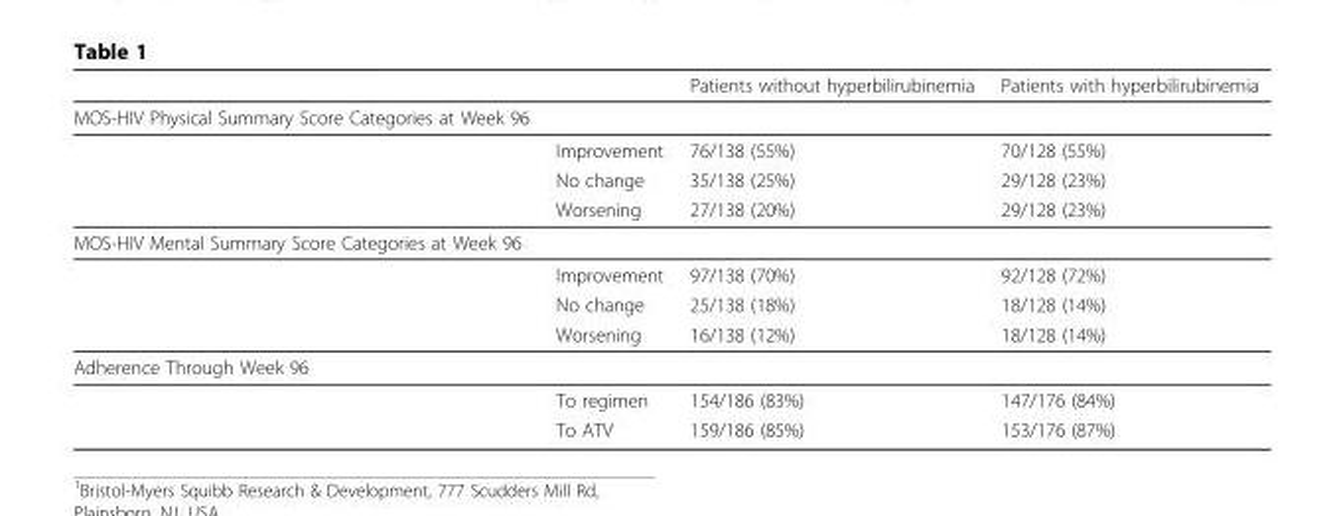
<table><thead><tr><td></td><td></td><td>Patients without hyperbilirubinemia</td><td>Patients with hyperbilirubinemia</td></tr></thead><tbody><tr><td colspan="4">MOS-HIV Physical Summary Score Categories at Week 96</td></tr><tr><td></td><td>Improvement</td><td>76/138 (55%)</td><td>70/128 (55%)</td></tr><tr><td></td><td>No change</td><td>35/138 (25%)</td><td>29/128 (23%)</td></tr><tr><td></td><td>Worsening</td><td>27/138 (20%)</td><td>29/128 (23%)</td></tr><tr><td colspan="4">MOS-HIV Mental Summary Score Categories at Week 96</td></tr><tr><td></td><td>Improvement</td><td>97/138 (70%)</td><td>92/128 (72%)</td></tr><tr><td></td><td>No change</td><td>25/138 (18%)</td><td>18/128 (14%)</td></tr><tr><td></td><td>Worsening</td><td>16/138 (12%)</td><td>18/128 (14%)</td></tr><tr><td colspan="4">Adherence Through Week 96</td></tr><tr><td></td><td>To regimen</td><td>154/186 (83%)</td><td>147/176 (84%)</td></tr><tr><td></td><td>To ATV</td><td>159/186 (85%)</td><td>153/176 (87%)</td></tr></tbody></table>